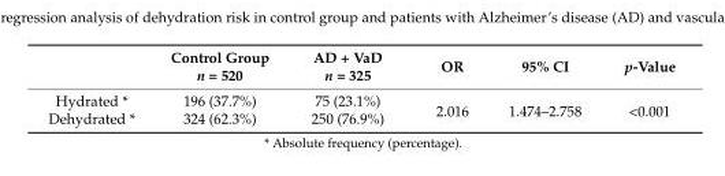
<table><thead><tr><td></td><td>Control Group n = 520</td><td>AD + VaD n = 325</td><td>OR</td><td>95% CI</td><td>p-Value</td></tr></thead><tbody><tr><td>Hydrated *</td><td>196 (37.7%)</td><td>75 (23.1%)</td><td rowspan="2">2.016</td><td rowspan="2">1.474–2.758</td><td rowspan="2">&lt;0.001</td></tr><tr><td>Dehydrated *</td><td>324 (62.3%)</td><td>250 (76.9%)</td></tr></tbody></table>